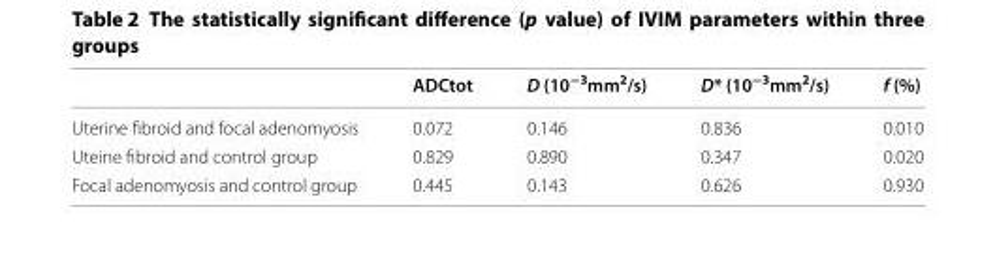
<table><thead><tr><td></td><td>ADCtot</td><td>D (10<sup>−3</sup>mm<sup>2</sup>/s)</td><td>D* (10<sup>−3</sup>mm<sup>2</sup>/s)</td><td>f (%)</td></tr></thead><tbody><tr><td>Uterine fibroid and focal adenomyosis</td><td>0.072</td><td>0.146</td><td>0.836</td><td>0.010</td></tr><tr><td>Uteine fibroid and control group</td><td>0.829</td><td>0.890</td><td>0.347</td><td>0.020</td></tr><tr><td>Focal adenomyosis and control group</td><td>0.445</td><td>0.143</td><td>0.626</td><td>0.930</td></tr></tbody></table>